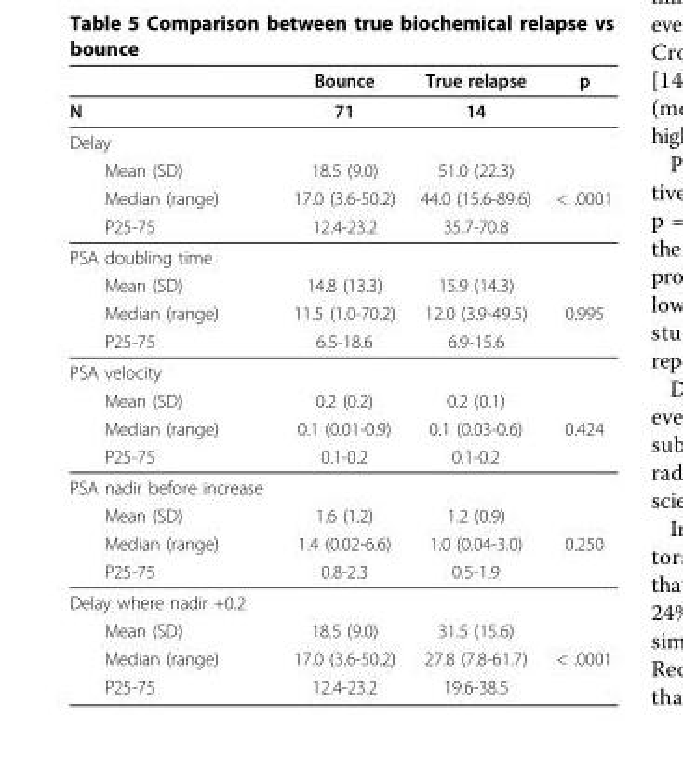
<table><thead><tr><td></td><td>Bounce</td><td>True relapse</td><td>p</td></tr></thead><tbody><tr><td>N</td><td>71</td><td>14</td><td></td></tr><tr><td colspan="4">Delay</td></tr><tr><td>Mean (SD)</td><td>18.5 (9.0)</td><td>51.0 (22.3)</td><td></td></tr><tr><td>Median (range)</td><td>17.0 (3.6-50.2)</td><td>44.0 (15.6-89.6)</td><td>&lt; .0001</td></tr><tr><td>P25-75</td><td>12.4-23.2</td><td>35.7-70.8</td><td></td></tr><tr><td colspan="4">PSA doubling time</td></tr><tr><td>Mean (SD)</td><td>14.8 (13.3)</td><td>15.9 (14.3)</td><td></td></tr><tr><td>Median (range)</td><td>11.5 (1.0-70.2)</td><td>12.0 (3.9-49.5)</td><td>0.995</td></tr><tr><td>P25-75</td><td>6.5-18.6</td><td>6.9-15.6</td><td></td></tr><tr><td colspan="4">PSA velocity</td></tr><tr><td>Mean (SD)</td><td>0.2 (0.2)</td><td>0.2 (0.1)</td><td></td></tr><tr><td>Median (range)</td><td>0.1 (0.01-0.9)</td><td>0.1 (0.03-0.6)</td><td>0.424</td></tr><tr><td>P25-75</td><td>0.1-0.2</td><td>0.1-0.2</td><td></td></tr><tr><td colspan="4">PSA nadir before increase</td></tr><tr><td>Mean (SD)</td><td>1.6 (1.2)</td><td>1.2 (0.9)</td><td></td></tr><tr><td>Median (range)</td><td>1.4 (0.02-6.6)</td><td>1.0 (0.04-3.0)</td><td>0.250</td></tr><tr><td>P25-75</td><td>0.8-2.3</td><td>0.5-1.9</td><td></td></tr><tr><td colspan="4">Delay where nadir +0.2</td></tr><tr><td>Mean (SD)</td><td>18.5 (9.0)</td><td>31.5 (15.6)</td><td></td></tr><tr><td>Median (range)</td><td>17.0 (3.6-50.2)</td><td>27.8 (7.8-61.7)</td><td>&lt; .0001</td></tr><tr><td>P25-75</td><td>12.4-23.2</td><td>19.6-38.5</td><td></td></tr></tbody></table>